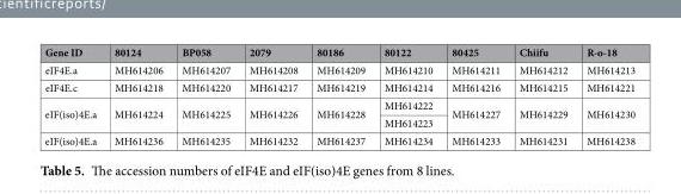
<table><thead><tr><td>Gene ID</td><td>80124</td><td>BP058</td><td>2079</td><td>80186</td><td>80122</td><td>80425</td><td>Chiifu</td><td>R-o-18</td></tr></thead><tbody><tr><td>eIF4E.a</td><td>MH614206</td><td>MH614207</td><td>MH614208</td><td>MH614209</td><td>MH614210</td><td>MH614211</td><td>MH614212</td><td>MH614213</td></tr><tr><td>eIF4E.c</td><td>MH614218</td><td>MH614220</td><td>MH614217</td><td>MH614219</td><td>MH614214</td><td>MH614216</td><td>MH614215</td><td>MH614221</td></tr><tr><td rowspan="2">eIF(iso)4E.a</td><td rowspan="2">MH614224</td><td rowspan="2">MH614225</td><td rowspan="2">MH614226</td><td rowspan="2">MH614228</td><td>MH614222</td><td rowspan="2">MH614227</td><td rowspan="2">MH614229</td><td rowspan="2">MH614230</td></tr><tr><td>MH614223</td></tr><tr><td>eIF(iso)4E.a</td><td>MH614236</td><td>MH614235</td><td>MH614232</td><td>MH614237</td><td>MH614234</td><td>MH614233</td><td>MH614231</td><td>MH614238</td></tr></tbody></table>